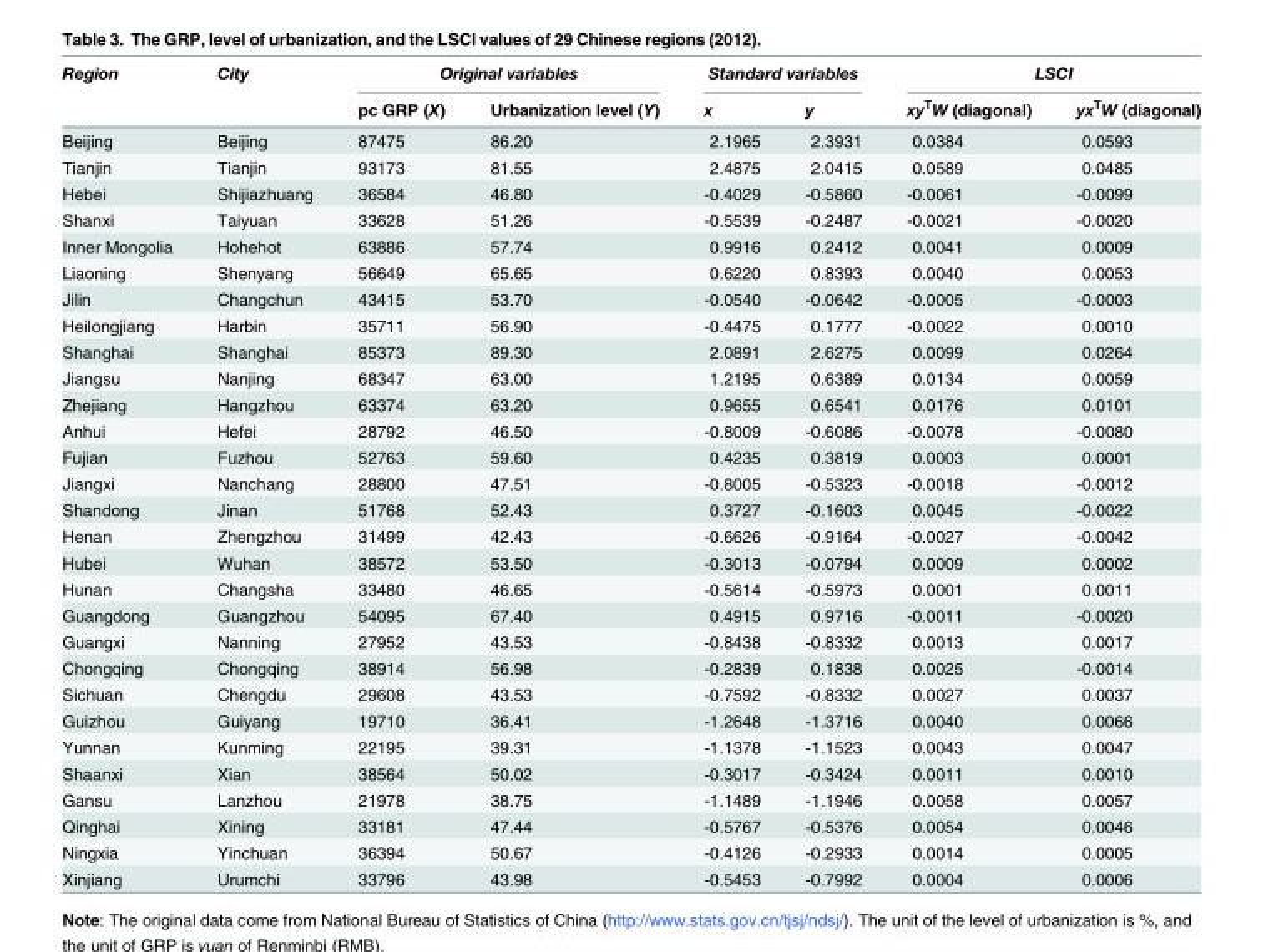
<table><thead><tr><td rowspan="2">Region</td><td rowspan="2">City</td><td colspan="2">Original variables</td><td colspan="2">Standard variables</td><td colspan="2">LSCI</td></tr><tr><td>pc GRP (X)</td><td>Urbanization level (Y)</td><td>x</td><td>y</td><td>xy<sup>T</sup>W (diagonal)</td><td>yx<sup>T</sup>W (diagonal)</td></tr></thead><tbody><tr><td>Beijing</td><td>Beijing</td><td>87475</td><td>86.20</td><td>2.1965</td><td>2.3931</td><td>0.0384</td><td>0.0593</td></tr><tr><td>Tianjin</td><td>Tianjin</td><td>93173</td><td>81.55</td><td>2.4875</td><td>2.0415</td><td>0.0589</td><td>0.0485</td></tr><tr><td>Hebei</td><td>Shijiazhuang</td><td>36584</td><td>46.80</td><td>-0.4029</td><td>-0.5860</td><td>-0.0061</td><td>-0.0099</td></tr><tr><td>Shanxi</td><td>Taiyuan</td><td>33628</td><td>51.26</td><td>-0.5539</td><td>-0.2487</td><td>-0.0021</td><td>-0.0020</td></tr><tr><td>Inner Mongolia</td><td>Hohehot</td><td>63886</td><td>57.74</td><td>0.9916</td><td>0.2412</td><td>0.0041</td><td>0.0009</td></tr><tr><td>Liaoning</td><td>Shenyang</td><td>56649</td><td>65.65</td><td>0.6220</td><td>0.8393</td><td>0.0040</td><td>0.0053</td></tr><tr><td>Jilin</td><td>Changchun</td><td>43415</td><td>53.70</td><td>-0.0540</td><td>-0.0642</td><td>-0.0005</td><td>-0.0003</td></tr><tr><td>Heilongjiang</td><td>Harbin</td><td>35711</td><td>56.90</td><td>-0.4475</td><td>0.1777</td><td>-0.0022</td><td>0.0010</td></tr><tr><td>Shanghai</td><td>Shanghai</td><td>85373</td><td>89.30</td><td>2.0891</td><td>2.6275</td><td>0.0099</td><td>0.0264</td></tr><tr><td>Jiangsu</td><td>Nanjing</td><td>68347</td><td>63.00</td><td>1.2195</td><td>0.6389</td><td>0.0134</td><td>0.0059</td></tr><tr><td>Zhejiang</td><td>Hangzhou</td><td>63374</td><td>63.20</td><td>0.9655</td><td>0.6541</td><td>0.0176</td><td>0.0101</td></tr><tr><td>Anhui</td><td>Hefei</td><td>28792</td><td>46.50</td><td>-0.8009</td><td>-0.6086</td><td>-0.0078</td><td>-0.0080</td></tr><tr><td>Fujian</td><td>Fuzhou</td><td>52763</td><td>59.60</td><td>0.4235</td><td>0.3819</td><td>0.0003</td><td>0.0001</td></tr><tr><td>Jiangxi</td><td>Nanchang</td><td>28800</td><td>47.51</td><td>-0.8005</td><td>-0.5323</td><td>-0.0018</td><td>-0.0012</td></tr><tr><td>Shandong</td><td>Jinan</td><td>51768</td><td>52.43</td><td>0.3727</td><td>-0.1603</td><td>0.0045</td><td>-0.0022</td></tr><tr><td>Henan</td><td>Zhengzhou</td><td>31499</td><td>42.43</td><td>-0.6626</td><td>-0.9164</td><td>-0.0027</td><td>-0.0042</td></tr><tr><td>Hubei</td><td>Wuhan</td><td>38572</td><td>53.50</td><td>-0.3013</td><td>-0.0794</td><td>0.0009</td><td>0.0002</td></tr><tr><td>Hunan</td><td>Changsha</td><td>33480</td><td>46.65</td><td>-0.5614</td><td>-0.5973</td><td>0.0001</td><td>0.0011</td></tr><tr><td>Guangdong</td><td>Guangzhou</td><td>54095</td><td>67.40</td><td>0.4915</td><td>0.9716</td><td>-0.0011</td><td>-0.0020</td></tr><tr><td>Guangxi</td><td>Nanning</td><td>27952</td><td>43.53</td><td>-0.8438</td><td>-0.8332</td><td>0.0013</td><td>0.0017</td></tr><tr><td>Chongqing</td><td>Chongqing</td><td>38914</td><td>56.98</td><td>-0.2839</td><td>0.1838</td><td>0.0025</td><td>-0.0014</td></tr><tr><td>Sichuan</td><td>Chengdu</td><td>29608</td><td>43.53</td><td>-0.7592</td><td>-0.8332</td><td>0.0027</td><td>0.0037</td></tr><tr><td>Guizhou</td><td>Guiyang</td><td>19710</td><td>36.41</td><td>-1.2648</td><td>-1.3716</td><td>0.0040</td><td>0.0066</td></tr><tr><td>Yunnan</td><td>Kunming</td><td>22195</td><td>39.31</td><td>-1.1378</td><td>-1.1523</td><td>0.0043</td><td>0.0047</td></tr><tr><td>Shaanxi</td><td>Xian</td><td>38564</td><td>50.02</td><td>-0.3017</td><td>-0.3424</td><td>0.0011</td><td>0.0010</td></tr><tr><td>Gansu</td><td>Lanzhou</td><td>21978</td><td>38.75</td><td>-1.1489</td><td>-1.1946</td><td>0.0058</td><td>0.0057</td></tr><tr><td>Qinghai</td><td>Xining</td><td>33181</td><td>47.44</td><td>-0.5767</td><td>-0.5376</td><td>0.0054</td><td>0.0046</td></tr><tr><td>Ningxia</td><td>Yinchuan</td><td>36394</td><td>50.67</td><td>-0.4126</td><td>-0.2933</td><td>0.0014</td><td>0.0005</td></tr><tr><td>Xinjiang</td><td>Urumchi</td><td>33796</td><td>43.98</td><td>-0.5453</td><td>-0.7992</td><td>0.0004</td><td>0.0006</td></tr></tbody></table>